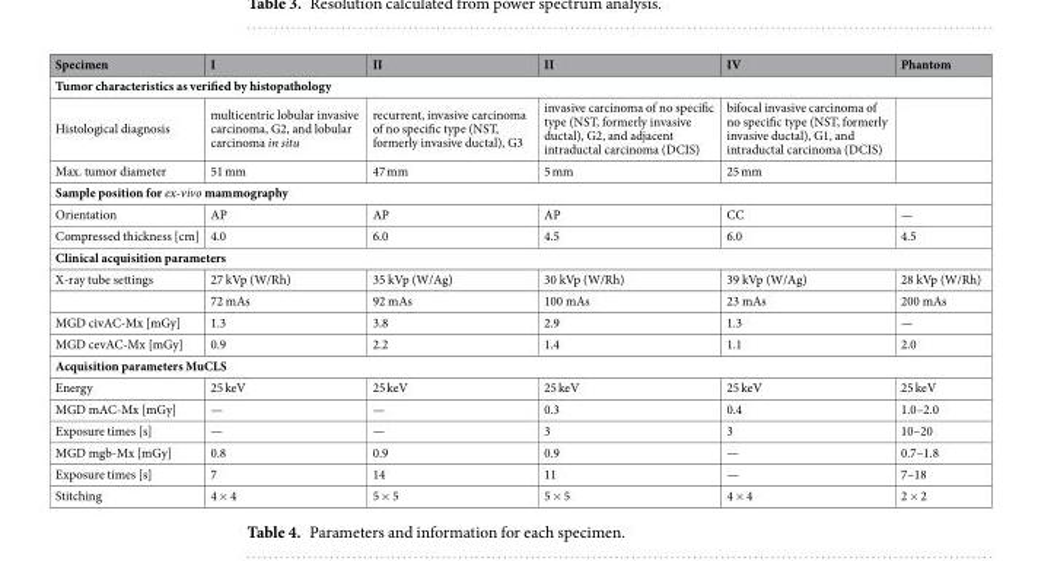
<table><thead><tr><td>Specimen</td><td>I</td><td>II</td><td>II</td><td>IV</td><td>Phantom</td></tr></thead><tbody><tr><td colspan="6">Tumor characteristics as verified by histopathology</td></tr><tr><td>Histological diagnosis</td><td>multicentric lobular invasive carcinoma, G2, and lobular carcinoma in situ</td><td>recurrent, invasive carcinoma of no specific type (NST, formerly invasive ductal), G3</td><td>invasive carcinoma of no specific type (NST, formerly invasive ductal), G2, and adjacent intraductal carcinoma (DCIS)</td><td>bifocal invasive carcinoma of no specific type (NST, formerly invasive ductal), G1, and intraductal carcinoma (DCIS)</td><td></td></tr><tr><td>Max. tumor diameter</td><td>51 mm</td><td>47 mm</td><td>5 mm</td><td>25 mm</td><td></td></tr><tr><td colspan="6">Sample position for ex-vivo mammography</td></tr><tr><td>Orientation</td><td>AP</td><td>AP</td><td>AP</td><td>CC</td><td>—</td></tr><tr><td>Compressed thickness [cm]</td><td>4.0</td><td>6.0</td><td>4.5</td><td>6.0</td><td>4.5</td></tr><tr><td colspan="6">Clinical acquisition parameters</td></tr><tr><td rowspan="2">X-ray tube settings</td><td>27 kVp (W/Rh)</td><td>35 kVp (W/Ag)</td><td>30 kVp (W/Rh)</td><td>39 kVp (W/Ag)</td><td>28 kVp (W/Rh)</td></tr><tr><td>72 mAs</td><td>92 mAs</td><td>100 mAs</td><td>23 mAs</td><td>200 mAs</td></tr><tr><td>MGD civAC-Mx [mGy]</td><td>1.3</td><td>3.8</td><td>2.9</td><td>1.3</td><td>—</td></tr><tr><td>MGD cevAC-Mx [mGy]</td><td>0.9</td><td>2.2</td><td>1.4</td><td>1.1</td><td>2.0</td></tr><tr><td colspan="6">Acquisition parameters MuCLS</td></tr><tr><td>Energy</td><td>25 keV</td><td>25 keV</td><td>25 keV</td><td>25 keV</td><td>25 keV</td></tr><tr><td>MGD mAC-Mx [mGy]</td><td>—</td><td>—</td><td>0.3</td><td>0.4</td><td>1.0–2.0</td></tr><tr><td>Exposure times [s]</td><td>—</td><td>—</td><td>3</td><td>3</td><td>10–20</td></tr><tr><td>MGD mgb-Mx [mGy]</td><td>0.8</td><td>0.9</td><td>0.9</td><td>—</td><td>0.7–1.8</td></tr><tr><td>Exposure times [s]</td><td>7</td><td>14</td><td>11</td><td>—</td><td>7–18</td></tr><tr><td>Stitching</td><td>4 × 4</td><td>5 × 5</td><td>5 × 5</td><td>4 × 4</td><td>2 × 2</td></tr></tbody></table>